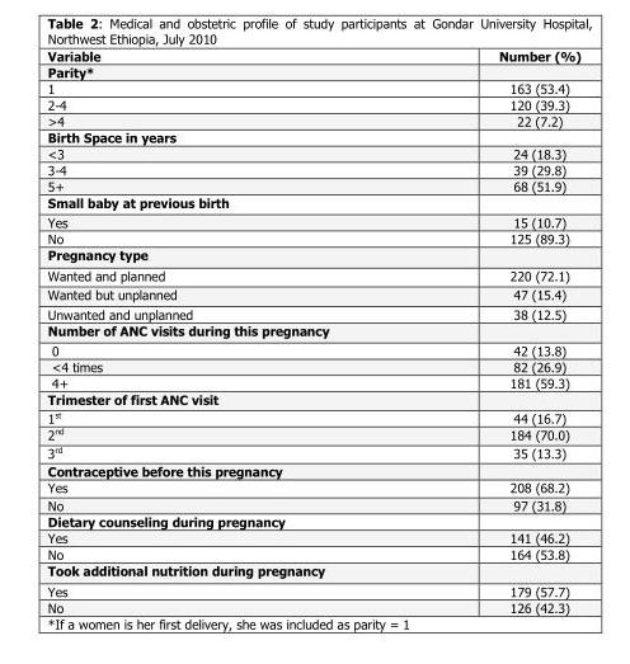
<table><thead><tr><td>Variable</td><td>Number (%)</td></tr></thead><tbody><tr><td colspan="2">Parity*</td></tr><tr><td>1</td><td>163 (53.4)</td></tr><tr><td>2-4</td><td>120 (39.3)</td></tr><tr><td>&gt;4</td><td>22 (7.2)</td></tr><tr><td colspan="2">Birth Space in years</td></tr><tr><td>&lt;3</td><td>24 (18.3)</td></tr><tr><td>3-4</td><td>39 (29.8)</td></tr><tr><td>5+</td><td>68 (51.9)</td></tr><tr><td colspan="2">Small baby at previous birth</td></tr><tr><td>Yes</td><td>15 (10.7)</td></tr><tr><td>No</td><td>125 (89.3)</td></tr><tr><td colspan="2">Pregnancy type</td></tr><tr><td>Wanted and planned</td><td>220 (72.1)</td></tr><tr><td>Wanted but unplanned</td><td>47 (15.4)</td></tr><tr><td>Unwanted and unplanned</td><td>38 (12.5)</td></tr><tr><td colspan="2">Number of ANC visits during this pregnancy</td></tr><tr><td>0</td><td>42 (13.8)</td></tr><tr><td>&lt;4 times</td><td>82 (26.9)</td></tr><tr><td>4+</td><td>181 (59.3)</td></tr><tr><td colspan="2">Trimester of first ANC visit</td></tr><tr><td>1<sup>st</sup></td><td>44 (16.7)</td></tr><tr><td>2<sup>nd</sup></td><td>184 (70.0)</td></tr><tr><td>3<sup>rd</sup></td><td>35 (13.3)</td></tr><tr><td colspan="2">Contraceptive before this pregnancy</td></tr><tr><td>Yes</td><td>208 (68.2)</td></tr><tr><td>No</td><td>97 (31.8)</td></tr><tr><td colspan="2">Dietary counseling during pregnancy</td></tr><tr><td>Yes</td><td>141 (46.2)</td></tr><tr><td>No</td><td>164 (53.8)</td></tr><tr><td colspan="2">Took additional nutrition during pregnancy</td></tr><tr><td>Yes</td><td>179 (57.7)</td></tr><tr><td>No</td><td>126 (42.3)</td></tr></tbody></table>